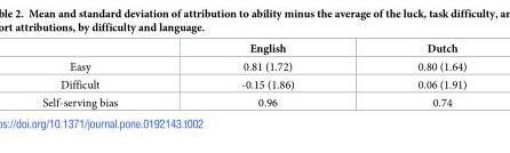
<table><thead><tr><td></td><td>English</td><td>Dutch</td></tr></thead><tbody><tr><td>Easy</td><td>0.81 (1.72)</td><td>0.80 (1.64)</td></tr><tr><td>Difficult</td><td>-0.15 (1.86)</td><td>0.06 (1.91)</td></tr><tr><td>Self-serving bias</td><td>0.96</td><td>0.74</td></tr></tbody></table>